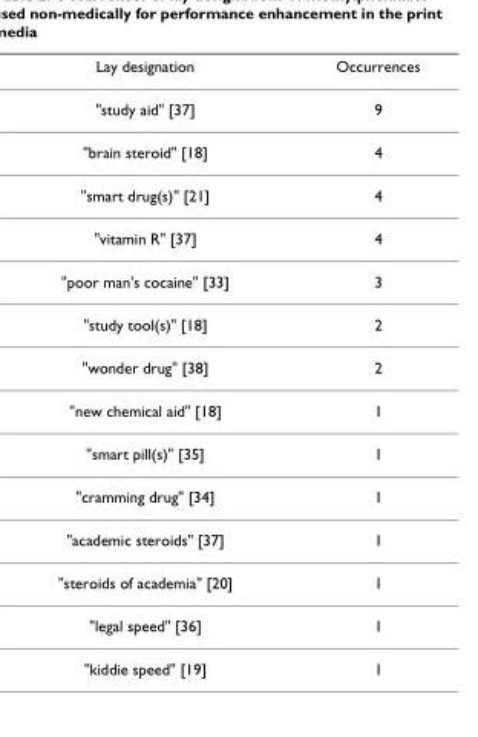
<table><thead><tr><td>Lay designation</td><td>Occurrences</td></tr></thead><tbody><tr><td>&quot;study aid&quot; [37]</td><td>9</td></tr><tr><td>&quot;brain steroid&quot; [18]</td><td>4</td></tr><tr><td>&quot;smart drug(s)&quot; [21]</td><td>4</td></tr><tr><td>&quot;vitamin R&quot; [37]</td><td>4</td></tr><tr><td>&quot;poor man&#x27;s cocaine&quot; [33]</td><td>3</td></tr><tr><td>&quot;study tool(s)&quot; [18]</td><td>2</td></tr><tr><td>&quot;wonder drug&quot; [38]</td><td>2</td></tr><tr><td>&quot;new chemical aid&quot; [18]</td><td>1</td></tr><tr><td>&quot;smart pill(s)&quot; [35]</td><td>1</td></tr><tr><td>&quot;cramming drug&quot; [34]</td><td>1</td></tr><tr><td>&quot;academic steroids&quot; [37]</td><td>1</td></tr><tr><td>&quot;steroids of academia&quot; [20]</td><td>1</td></tr><tr><td>&quot;legal speed&quot; [36]</td><td>1</td></tr><tr><td>&quot;kiddie speed&quot; [19]</td><td>1</td></tr></tbody></table>